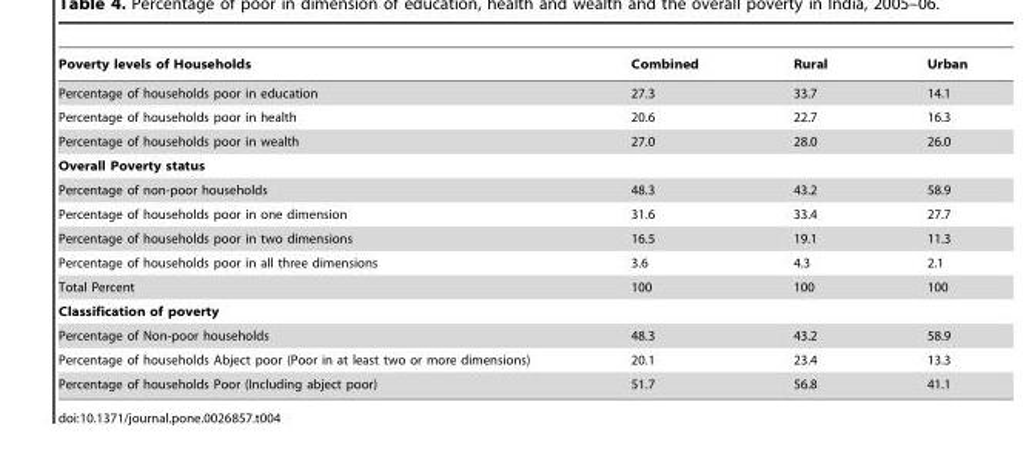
<table><thead><tr><td>Poverty levels of Households</td><td>Combined</td><td>Rural</td><td>Urban</td></tr></thead><tbody><tr><td>Percentage of households poor in education</td><td>27.3</td><td>33.7</td><td>14.1</td></tr><tr><td>Percentage of households poor in health</td><td>20.6</td><td>22.7</td><td>16.3</td></tr><tr><td>Percentage of households poor in wealth</td><td>27.0</td><td>28.0</td><td>26.0</td></tr><tr><td colspan="4">Overall Poverty status</td></tr><tr><td>Percentage of non-poor households</td><td>48.3</td><td>43.2</td><td>58.9</td></tr><tr><td>Percentage of households poor in one dimension</td><td>31.6</td><td>33.4</td><td>27.7</td></tr><tr><td>Percentage of households poor in two dimensions</td><td>16.5</td><td>19.1</td><td>11.3</td></tr><tr><td>Percentage of households poor in all three dimensions</td><td>3.6</td><td>4.3</td><td>2.1</td></tr><tr><td>Total Percent</td><td>100</td><td>100</td><td>100</td></tr><tr><td colspan="4">Classification of poverty</td></tr><tr><td>Percentage of Non-poor households</td><td>48.3</td><td>43.2</td><td>58.9</td></tr><tr><td>Percentage of households Abject poor (Poor in at least two or more dimensions)</td><td>20.1</td><td>23.4</td><td>13.3</td></tr><tr><td>Percentage of households Poor (Including abject poor)</td><td>51.7</td><td>56.8</td><td>41.1</td></tr></tbody></table>